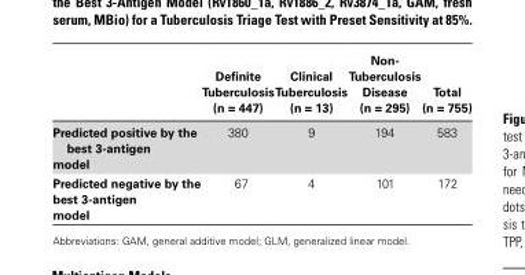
<table><thead><tr><td></td><td>Definite Tuberculosis (n = 447)</td><td>Clinical Tuberculosis (n = 13)</td><td>Non- Tuberculosis Disease (n = 295)</td><td>Total (n = 755)</td></tr></thead><tbody><tr><td>Predicted positive by the best 3-antigen model</td><td>380</td><td>9</td><td>194</td><td>583</td></tr><tr><td>Predicted negative by the best 3-antigen model</td><td>67</td><td>4</td><td>101</td><td>172</td></tr></tbody></table>